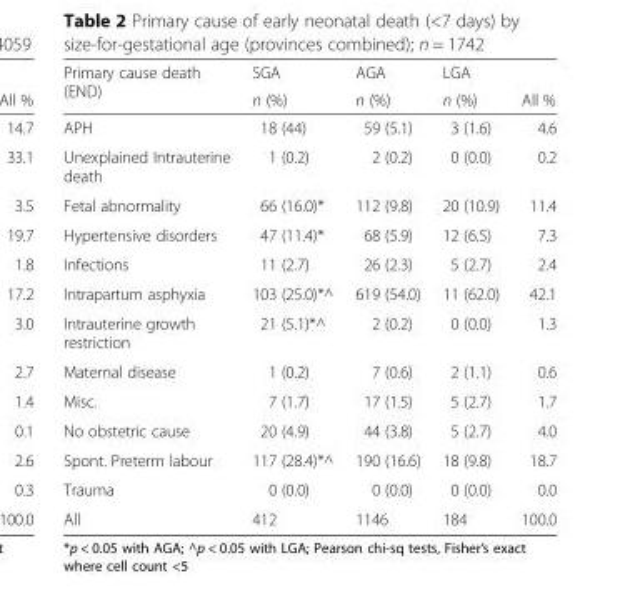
<table><thead><tr><td rowspan="2">Primary cause death (END)</td><td rowspan="2">SGA n (%)</td><td rowspan="2">AGA n (%)</td><td rowspan="2">LGA n (%)</td><td rowspan="2">All %</td></tr><tr></tr></thead><tbody><tr><td>APH</td><td>18 (44)</td><td>59 (5.1)</td><td>3 (1.6)</td><td>4.6</td></tr><tr><td>Unexplained Intrauterine death</td><td>1 (0.2)</td><td>2 (0.2)</td><td>0 (0.0)</td><td>0.2</td></tr><tr><td>Fetal abnormality</td><td>66 (16.0)*</td><td>112 (9.8)</td><td>20 (10.9)</td><td>11.4</td></tr><tr><td>Hypertensive disorders</td><td>47 (11.4)*</td><td>68 (5.9)</td><td>12 (6.5)</td><td>7.3</td></tr><tr><td>Infections</td><td>11 (2.7)</td><td>26 (2.3)</td><td>5 (2.7)</td><td>2.4</td></tr><tr><td>Intrapartum asphyxia</td><td>103 (25.0)*^</td><td>619 (54.0)</td><td>11 (62.0)</td><td>42.1</td></tr><tr><td>Intrauterine growth restriction</td><td>21 (5.1)*^</td><td>2 (0.2)</td><td>0 (0.0)</td><td>1.3</td></tr><tr><td>Maternal disease</td><td>1 (0.2)</td><td>7 (0.6)</td><td>2 (1.1)</td><td>0.6</td></tr><tr><td>Misc.</td><td>7 (1.7)</td><td>17 (1.5)</td><td>5 (2.7)</td><td>1.7</td></tr><tr><td>No obstetric cause</td><td>20 (4.9)</td><td>44 (3.8)</td><td>5 (2.7)</td><td>4.0</td></tr><tr><td>Spont. Preterm labour</td><td>117 (28.4)*^</td><td>190 (16.6)</td><td>18 (9.8)</td><td>18.7</td></tr><tr><td>Trauma</td><td>0 (0.0)</td><td>0 (0.0)</td><td>0 (0.0)</td><td>0.0</td></tr><tr><td>All</td><td>412</td><td>1146</td><td>184</td><td>100.0</td></tr></tbody></table>